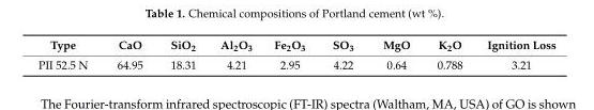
<table><thead><tr><td>Type</td><td>CaO</td><td>SiO<sub>2</sub></td><td>Al<sub>2</sub>O<sub>3</sub></td><td>Fe<sub>2</sub>O<sub>3</sub></td><td>SO<sub>3</sub></td><td>MgO</td><td>K<sub>2</sub>O</td><td>Ignition Loss</td></tr></thead><tbody><tr><td>PII 52.5 N</td><td>64.95</td><td>18.31</td><td>4.21</td><td>2.95</td><td>4.22</td><td>0.64</td><td>0.788</td><td>3.21</td></tr></tbody></table>